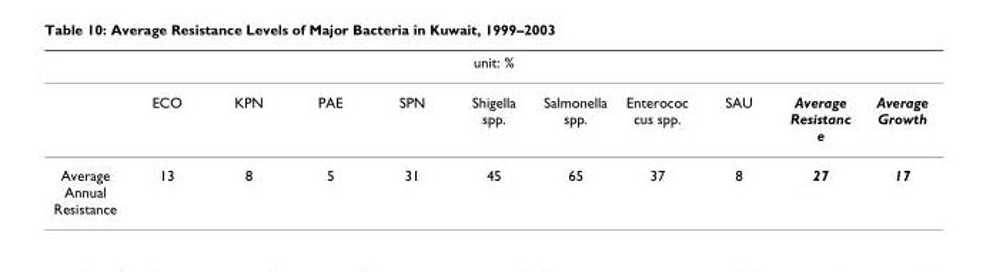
<table><thead><tr><td colspan="11">unit: %</td></tr><tr><td></td><td>ECO</td><td>KPN</td><td>PAE</td><td>SPN</td><td>Shigella spp.</td><td>Salmonella spp.</td><td>Enterococ cus spp.</td><td>SAU</td><td>Average Resistanc e</td><td>Average Growth</td></tr></thead><tbody><tr><td>Average Annual Resistance</td><td>13</td><td>8</td><td>5</td><td>31</td><td>45</td><td>65</td><td>37</td><td>8</td><td>27</td><td>17</td></tr></tbody></table>